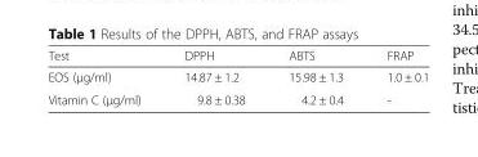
<table><thead><tr><td>Test</td><td>DPPH</td><td>ABTS</td><td>FRAP</td></tr></thead><tbody><tr><td>EOS (μg/ml)</td><td>14.87 ± 1.2</td><td>15.98 ± 1.3</td><td>1.0 ± 0.1</td></tr><tr><td>Vitamin C (μg/ml)</td><td>9.8 ± 0.38</td><td>4.2 ± 0.4</td><td>-</td></tr></tbody></table>